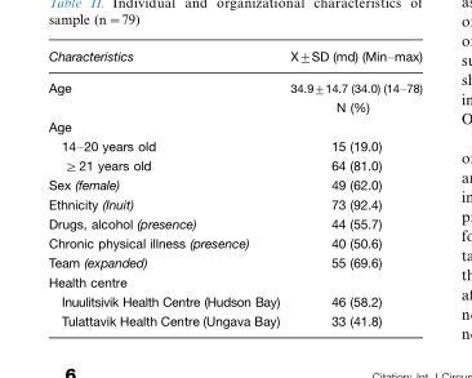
<table><thead><tr><td>Characteristics</td><td>X±SD (md) (Min–max)</td></tr></thead><tbody><tr><td rowspan="2">Age</td><td>34.9±14.7 (34.0) (14–78)</td></tr><tr><td>N (%)</td></tr><tr><td colspan="2">Age</td></tr><tr><td>14–20 years old</td><td>15 (19.0)</td></tr><tr><td>≥21 years old</td><td>64 (81.0)</td></tr><tr><td>Sex (female)</td><td>49 (62.0)</td></tr><tr><td>Ethnicity (Inuit)</td><td>73 (92.4)</td></tr><tr><td>Drugs, alcohol (presence)</td><td>44 (55.7)</td></tr><tr><td>Chronic physical illness (presence)</td><td>40 (50.6)</td></tr><tr><td>Team (expanded)</td><td>55 (69.6)</td></tr><tr><td colspan="2">Health centre</td></tr><tr><td>Inuulitsivik Health Centre (Hudson Bay)</td><td>46 (58.2)</td></tr><tr><td>Tulattavik Health Centre (Ungava Bay)</td><td>33 (41.8)</td></tr></tbody></table>